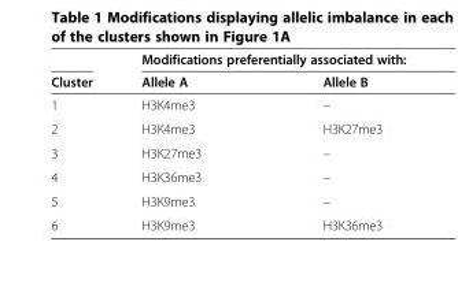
<table><thead><tr><td rowspan="2">Cluster</td><td colspan="2">Modifications preferentially associated with:</td></tr><tr><td>Allele A</td><td>Allele B</td></tr></thead><tbody><tr><td>1</td><td>H3K4me3</td><td>–</td></tr><tr><td>2</td><td>H3K4me3</td><td>H3K27me3</td></tr><tr><td>3</td><td>H3K27me3</td><td>–</td></tr><tr><td>4</td><td>H3K36me3</td><td>–</td></tr><tr><td>5</td><td>H3K9me3</td><td>–</td></tr><tr><td>6</td><td>H3K9me3</td><td>H3K36me3</td></tr></tbody></table>